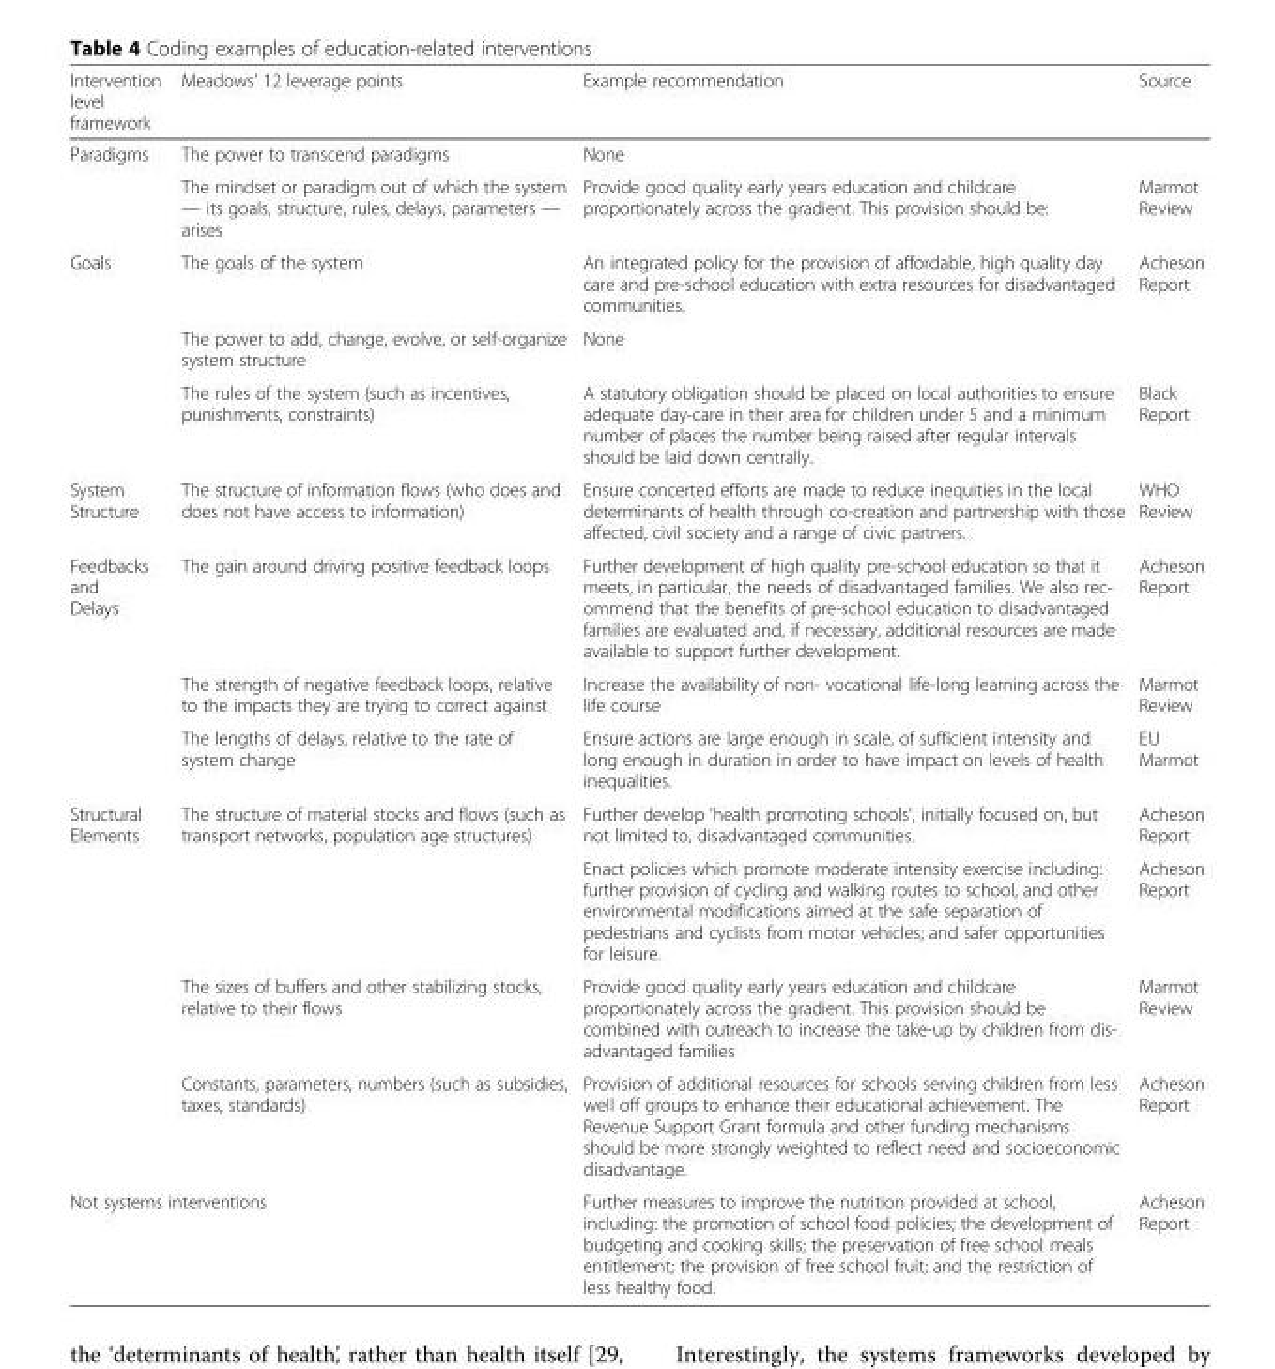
<table><thead><tr><td>Intervention level framework</td><td>Meadows’ 12 leverage points</td><td>Example recommendation</td><td>Source</td></tr></thead><tbody><tr><td rowspan="2">Paradigms</td><td>The power to transcend paradigms</td><td>None</td><td></td></tr><tr><td>The mindset or paradigm out of which the system — its goals, structure, rules, delays, parameters — arises</td><td>Provide good quality early years education and childcare proportionately across the gradient. This provision should be:</td><td>Marmot Review</td></tr><tr><td rowspan="3">Goals</td><td>The goals of the system</td><td>An integrated policy for the provision of affordable, high quality day care and pre-school education with extra resources for disadvantaged communities.</td><td>Acheson Report</td></tr><tr><td>The power to add, change, evolve, or self-organize system structure</td><td>None</td><td></td></tr><tr><td>The rules of the system (such as incentives, punishments, constraints)</td><td>A statutory obligation should be placed on local authorities to ensure adequate day-care in their area for children under 5 and a minimum number of places the number being raised after regular intervals should be laid down centrally.</td><td>Black Report</td></tr><tr><td>System Structure</td><td>The structure of information flows (who does and does not have access to information)</td><td>Ensure concerted efforts are made to reduce inequities in the local determinants of health through co-creation and partnership with those affected, civil society and a range of civic partners.</td><td>WHO Review</td></tr><tr><td rowspan="3">Feedbacks and Delays</td><td>The gain around driving positive feedback loops</td><td>Further development of high quality pre-school education so that it meets, in particular, the needs of disadvantaged families. We also rec- ommend that the benefits of pre-school education to disadvantaged families are evaluated and, if necessary, additional resources are made available to support further development.</td><td>Acheson Report</td></tr><tr><td>The strength of negative feedback loops, relative to the impacts they are trying to correct against</td><td>Increase the availability of non- vocational life-long learning across the life course</td><td>Marmot Review</td></tr><tr><td>The lengths of delays, relative to the rate of system change</td><td>Ensure actions are large enough in scale, of sufficient intensity and long enough in duration in order to have impact on levels of health inequalities.</td><td>EU Marmot</td></tr><tr><td rowspan="4">Structural Elements</td><td rowspan="2">The structure of material stocks and flows (such as transport networks, population age structures)</td><td>Further develop &#x27;health promoting schools&#x27;, initially focused on, but not limited to, disadvantaged communities.</td><td>Acheson Report</td></tr><tr><td>Enact policies which promote moderate intensity exercise including: further provision of cycling and walking routes to school, and other environmental modifications aimed at the safe separation of pedestrians and cyclists from motor vehicles; and safer opportunities for leisure.</td><td>Acheson Report</td></tr><tr><td>The sizes of buffers and other stabilizing stocks, relative to their flows</td><td>Provide good quality early years education and childcare proportionately across the gradient. This provision should be combined with outreach to increase the take-up by children from dis- advantaged families</td><td>Marmot Review</td></tr><tr><td>Constants, parameters, numbers (such as subsidies, taxes, standards)</td><td>Provision of additional resources for schools serving children from less well off groups to enhance their educational achievement. The Revenue Support Grant formula and other funding mechanisms should be more strongly weighted to reflect need and socioeconomic disadvantage.</td><td>Acheson Report</td></tr><tr><td colspan="2">Not systems interventions</td><td>Further measures to improve the nutrition provided at school, including: the promotion of school food policies; the development of budgeting and cooking skills; the preservation of free school meals entitlement; the provision of free school fruit; and the restriction of less healthy food.</td><td>Acheson Report</td></tr></tbody></table>